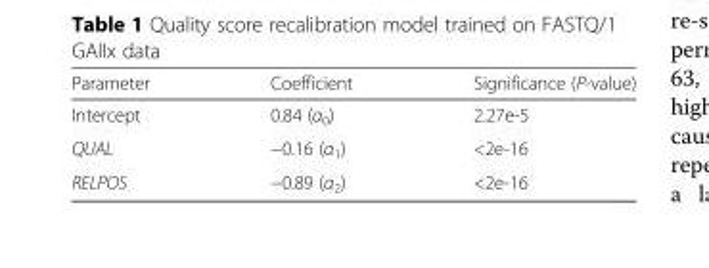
<table><thead><tr><td>Parameter</td><td>Coefficient</td><td>Significance (P-value)</td></tr></thead><tbody><tr><td>Intercept</td><td>0.84 (α<sub>0</sub>)</td><td>2.27e-5</td></tr><tr><td>QUAL</td><td>−0.16 (α<sub>1</sub>)</td><td>&lt;2e-16</td></tr><tr><td>RELPOS</td><td>−0.89 (α<sub>2</sub>)</td><td>&lt;2e-16</td></tr></tbody></table>